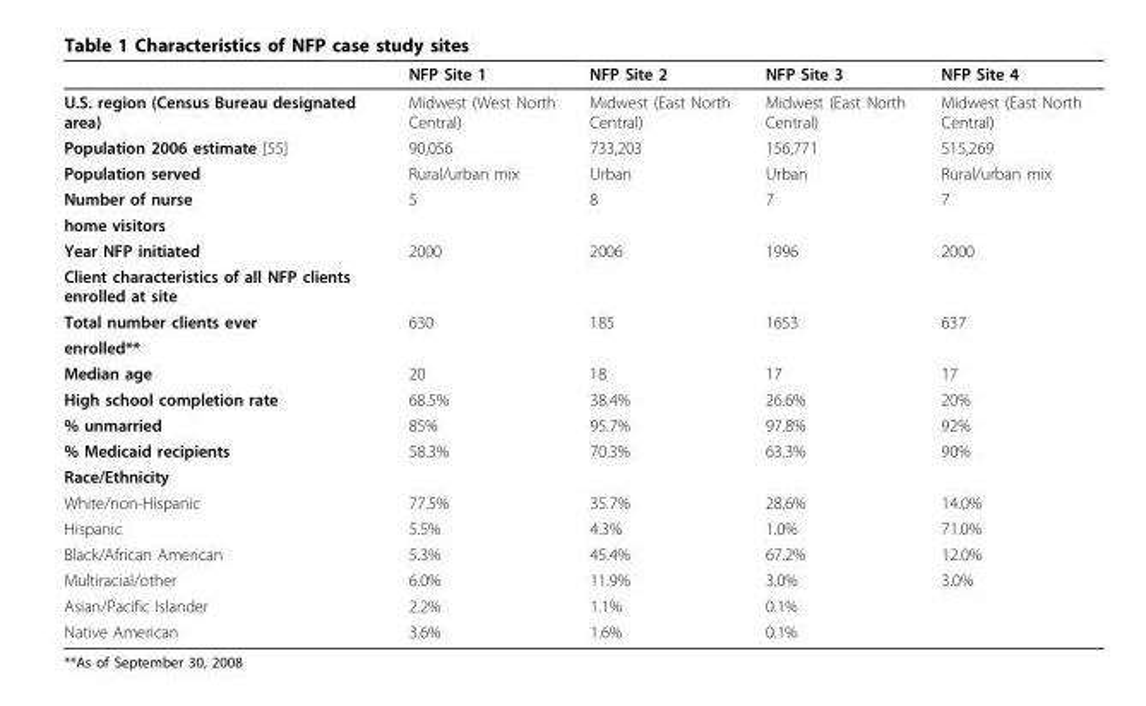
<table><thead><tr><td></td><td>NFP Site 1</td><td>NFP Site 2</td><td>NFP Site 3</td><td>NFP Site 4</td></tr></thead><tbody><tr><td>U.S. region (Census Bureau designated area)</td><td>Midwest (West North Central)</td><td>Midwest (East North Central)</td><td>Midwest (East North Central)</td><td>Midwest (East North Central)</td></tr><tr><td>Population 2006 estimate [55]</td><td>90,056</td><td>733,203</td><td>156,771</td><td>515,269</td></tr><tr><td>Population served</td><td>Rural/urban mix</td><td>Urban</td><td>Urban</td><td>Rural/urban mix</td></tr><tr><td>Number of nurse</td><td>5</td><td>8</td><td>7</td><td>7</td></tr><tr><td colspan="5">home visitors</td></tr><tr><td>Year NFP initiated</td><td>2000</td><td>2006</td><td>1996</td><td>2000</td></tr><tr><td colspan="5">Client characteristics of all NFP clients enrolled at site</td></tr><tr><td>Total number clients ever</td><td>630</td><td>185</td><td>1653</td><td>637</td></tr><tr><td colspan="5">enrolled**</td></tr><tr><td>Median age</td><td>20</td><td>18</td><td>17</td><td>17</td></tr><tr><td>High school completion rate</td><td>68.5%</td><td>38.4%</td><td>26.6%</td><td>20%</td></tr><tr><td>% unmarried</td><td>85%</td><td>95.7%</td><td>97.8%</td><td>92%</td></tr><tr><td>% Medicaid recipients</td><td>58.3%</td><td>70.3%</td><td>63.3%</td><td>90%</td></tr><tr><td colspan="5">Race/Ethnicity</td></tr><tr><td>White/non-Hispanic</td><td>77.5%</td><td>35.7%</td><td>28.6%</td><td>14.0%</td></tr><tr><td>Hispanic</td><td>5.5%</td><td>4.3%</td><td>1.0%</td><td>71.0%</td></tr><tr><td>Black/African American</td><td>5.3%</td><td>45.4%</td><td>67.2%</td><td>12.0%</td></tr><tr><td>Multiracial/other</td><td>6.0%</td><td>11.9%</td><td>3.0%</td><td>3.0%</td></tr><tr><td>Asian/Pacific Islander</td><td>2.2%</td><td>1.1%</td><td>0.1%</td><td></td></tr><tr><td>Native American</td><td>3.6%</td><td>1.6%</td><td>0.1%</td><td></td></tr></tbody></table>